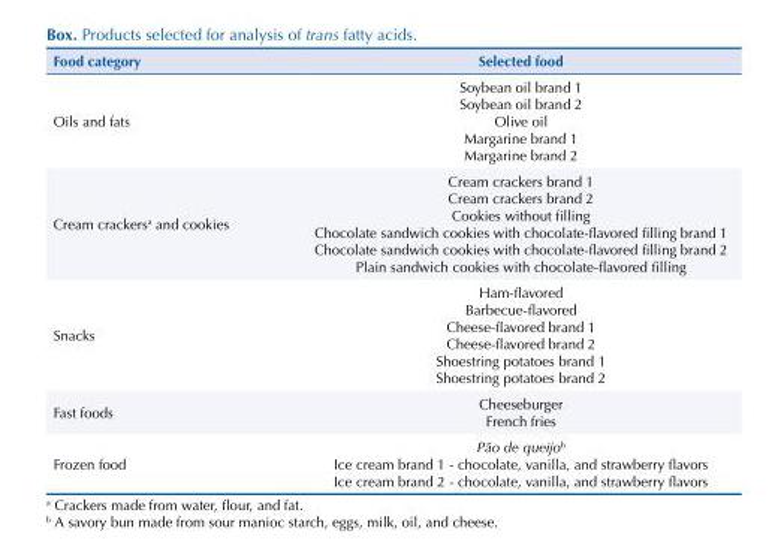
<table><thead><tr><td>Food category</td><td>Selected food</td></tr></thead><tbody><tr><td>Oils and fats</td><td>Soybean oil brand 1 Soybean oil brand 2 Olive oil Margarine brand 1 Margarine brand 2</td></tr><tr><td>Cream crackers<sup>a</sup> and cookies</td><td>Cream crackers brand 1 Cream crackers brand 2 Cookies without filling Chocolate sandwich cookies with chocolate-flavored filling brand 1 Chocolate sandwich cookies with chocolate-flavored filling brand 2 Plain sandwich cookies with chocolate-flavored filling</td></tr><tr><td>Snacks</td><td>Ham-flavored Barbecue-flavored Cheese-flavored brand 1 Cheese-flavored brand 2 Shoestring potatoes brand 1 Shoestring potatoes brand 2</td></tr><tr><td>Fast foods</td><td>Cheeseburger French fries</td></tr><tr><td>Frozen food</td><td>Pão de queijo<sup>b</sup> Ice cream brand 1 - chocolate, vanilla, and strawberry flavors Ice cream brand 2 - chocolate, vanilla, and strawberry flavors</td></tr></tbody></table>